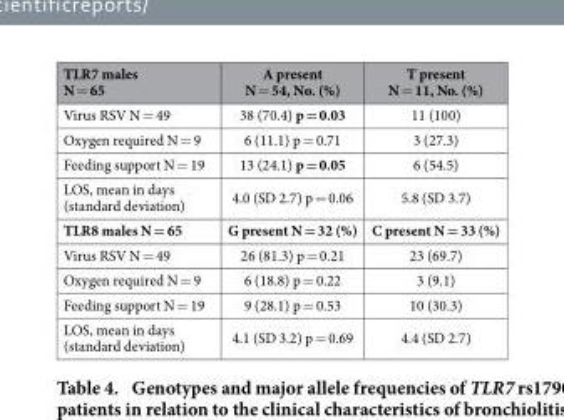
<table><thead><tr><td>TLR7 males N = 65</td><td>A present N = 54, No. (%)</td><td>T present N = 11, No. (%)</td></tr></thead><tbody><tr><td>Virus RSV N = 49</td><td>38 (70.4) p = 0.03</td><td>11 (100)</td></tr><tr><td>Oxygen required N = 9</td><td>6 (11.1) p = 0.71</td><td>3 (27.3)</td></tr><tr><td>Feeding support N = 19</td><td>13 (24.1) p = 0.05</td><td>6 (54.5)</td></tr><tr><td>LOS, mean in days (standard deviation)</td><td>4.0 (SD 2.7) p = 0.06</td><td>5.8 (SD 3.7)</td></tr><tr><td>TLR8 males N = 65</td><td>G present N = 32 (%)</td><td>C present N = 33 (%)</td></tr><tr><td>Virus RSV N = 49</td><td>26 (81.3) p = 0.21</td><td>23 (69.7)</td></tr><tr><td>Oxygen required N = 9</td><td>6 (18.8) p = 0.22</td><td>3 (9.1)</td></tr><tr><td>Feeding support N = 19</td><td>9 (28.1) p = 0.53</td><td>10 (30.3)</td></tr><tr><td>LOS, mean in days (standard deviation)</td><td>4.1 (SD 3.2) p = 0.69</td><td>4.4 (SD 2.7)</td></tr></tbody></table>